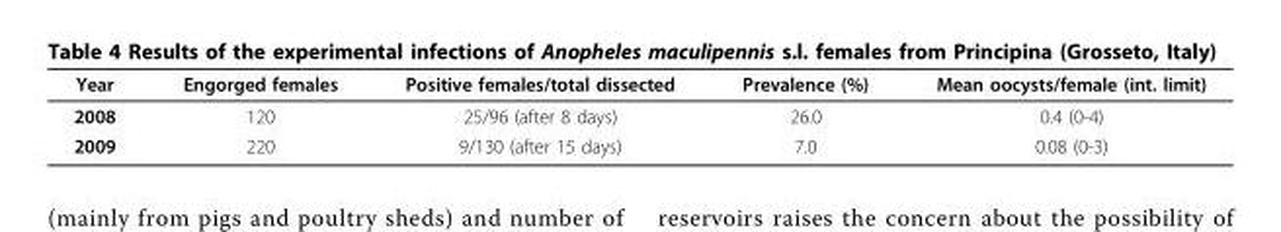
<table><thead><tr><td>Year</td><td>Engorged females</td><td>Positive females/total dissected</td><td>Prevalence (%)</td><td>Mean oocysts/female (int. limit)</td></tr></thead><tbody><tr><td>2008</td><td>120</td><td>25/96 (after 8 days)</td><td>26.0</td><td>0.4 (0-4)</td></tr><tr><td>2009</td><td>220</td><td>9/130 (after 15 days)</td><td>7.0</td><td>0.08 (0-3)</td></tr></tbody></table>